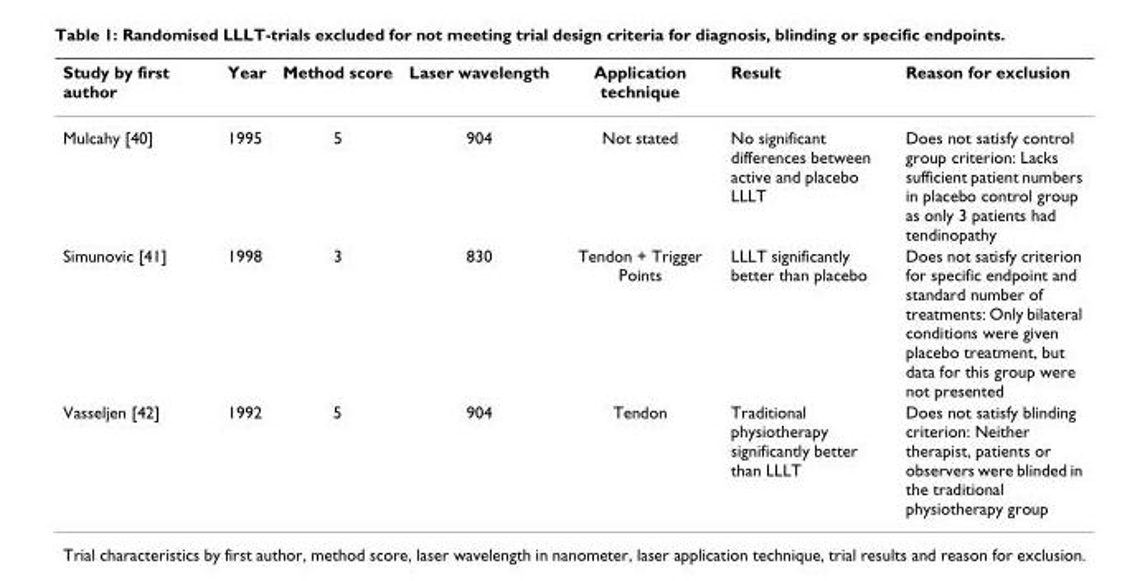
<table><thead><tr><td>Study by first author</td><td>Year</td><td>Method score</td><td>Laser wavelength</td><td>Application technique</td><td>Result</td><td>Reason for exclusion</td></tr></thead><tbody><tr><td>Mulcahy [40]</td><td>1995</td><td>5</td><td>904</td><td>Not stated</td><td>No significant differences between active and placebo LLLT</td><td>Does not satisfy control group criterion: Lacks sufficient patient numbers in placebo control group as only 3 patients had tendinopathy</td></tr><tr><td>Simunovic [41]</td><td>1998</td><td>3</td><td>830</td><td>Tendon + Trigger Points</td><td>LLLT significantly better than placebo</td><td>Does not satisfy criterion for specific endpoint and standard number of treatments: Only bilateral conditions were given placebo treatment, but data for this group were not presented</td></tr><tr><td>Vasseljen [42]</td><td>1992</td><td>5</td><td>904</td><td>Tendon</td><td>Traditional physiotherapy significantly better than LLLT</td><td>Does not satisfy blinding criterion: Neither therapist, patients or observers were blinded in the traditional physiotherapy group</td></tr></tbody></table>